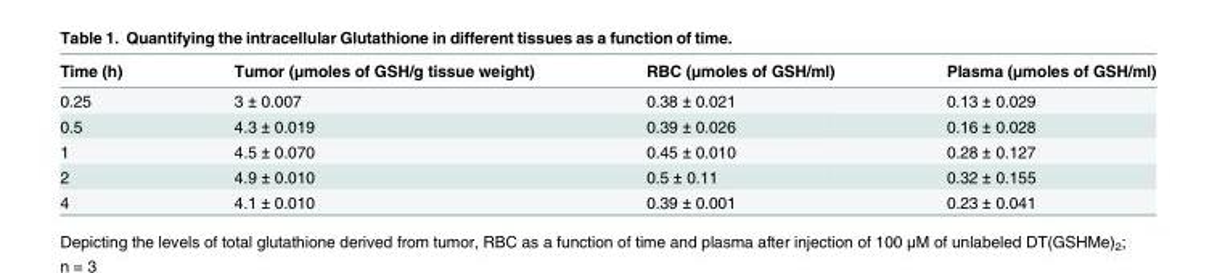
<table><thead><tr><td>Time (h)</td><td>Tumor (μmoles of GSH/g tissue weight)</td><td>RBC (μmoles of GSH/ml)</td><td>Plasma (μmoles of GSH/ml)</td></tr></thead><tbody><tr><td>0.25</td><td>3 ± 0.007</td><td>0.38 ± 0.021</td><td>0.13 ± 0.029</td></tr><tr><td>0.5</td><td>4.3 ± 0.019</td><td>0.39 ± 0.026</td><td>0.16 ± 0.028</td></tr><tr><td>1</td><td>4.5 ± 0.070</td><td>0.45 ± 0.010</td><td>0.28 ± 0.127</td></tr><tr><td>2</td><td>4.9 ± 0.010</td><td>0.5 ± 0.11</td><td>0.32 ± 0.155</td></tr><tr><td>4</td><td>4.1 ± 0.010</td><td>0.39 ± 0.001</td><td>0.23 ± 0.041</td></tr></tbody></table>